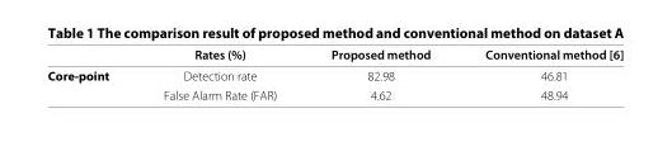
<table><thead><tr><td></td><td>Rates (%)</td><td>Proposed method</td><td>Conventional method [6]</td></tr></thead><tbody><tr><td rowspan="2">Core-point</td><td>Detection rate</td><td>82.98</td><td>46.81</td></tr><tr><td>False Alarm Rate (FAR)</td><td>4.62</td><td>48.94</td></tr></tbody></table>